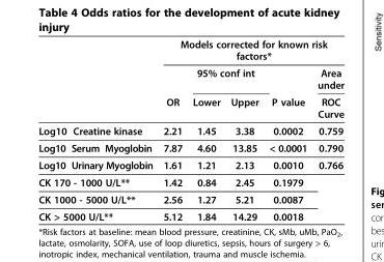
<table><thead><tr><td rowspan="3"></td><td colspan="5">Models corrected for known risk factors*</td></tr><tr><td rowspan="2">OR</td><td colspan="2">95% conf int</td><td rowspan="2">P value</td><td rowspan="2">Area under ROC Curve</td></tr><tr><td>Lower</td><td>Upper</td></tr></thead><tbody><tr><td>Log10 Creatine kinase</td><td>2.21</td><td>1.45</td><td>3.38</td><td>0.0002</td><td>0.759</td></tr><tr><td>Log10 Serum Myoglobin</td><td>7.87</td><td>4.60</td><td>13.85</td><td>&lt; 0.0001</td><td>0.790</td></tr><tr><td>Log10 Urinary Myoglobin</td><td>1.61</td><td>1.21</td><td>2.13</td><td>0.0010</td><td>0.766</td></tr><tr><td>CK 170 - 1000 U/L**</td><td>1.42</td><td>0.84</td><td>2.45</td><td>0.1979</td><td></td></tr><tr><td>CK 1000 - 5000 U/L**</td><td>2.56</td><td>1.27</td><td>5.21</td><td>0.0087</td><td></td></tr><tr><td>CK &gt; 5000 U/L**</td><td>5.12</td><td>1.84</td><td>14.29</td><td>0.0018</td><td></td></tr></tbody></table>